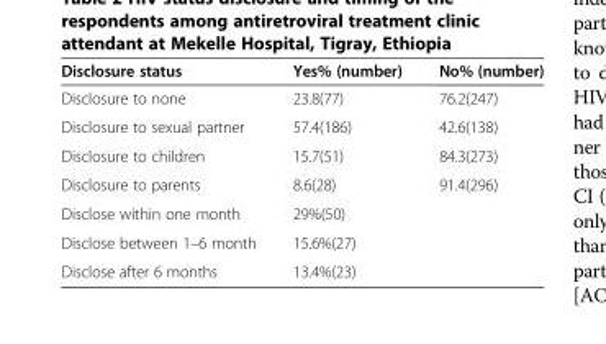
<table><thead><tr><td>Disclosure status</td><td>Yes% (number)</td><td>No% (number)</td></tr></thead><tbody><tr><td>Disclosure to none</td><td>23.8(77)</td><td>76.2(247)</td></tr><tr><td>Disclosure to sexual partner</td><td>57.4(186)</td><td>42.6(138)</td></tr><tr><td>Disclosure to children</td><td>15.7(51)</td><td>84.3(273)</td></tr><tr><td>Disclosure to parents</td><td>8.6(28)</td><td>91.4(296)</td></tr><tr><td>Disclose within one month</td><td>29%(50)</td><td></td></tr><tr><td>Disclose between 1–6 month</td><td>15.6%(27)</td><td></td></tr><tr><td>Disclose after 6 months</td><td>13.4%(23)</td><td></td></tr></tbody></table>